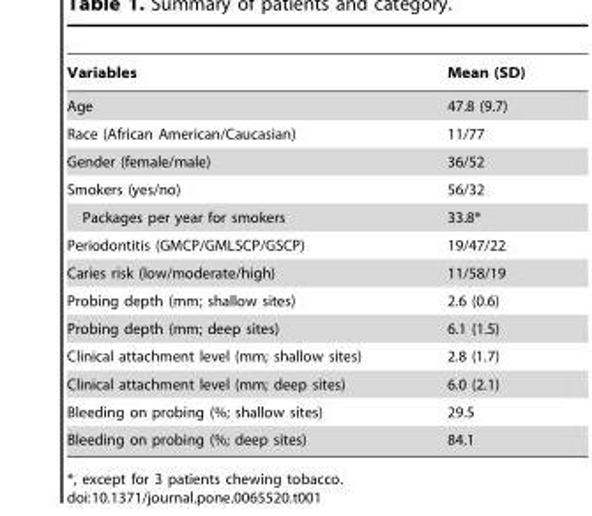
<table><thead><tr><td>Variables</td><td>Mean (SD)</td></tr></thead><tbody><tr><td>Age</td><td>47.8 (9.7)</td></tr><tr><td>Race (African American/Caucasian)</td><td>11/77</td></tr><tr><td>Gender (female/male)</td><td>36/52</td></tr><tr><td>Smokers (yes/no)</td><td>56/32</td></tr><tr><td>Packages per year for smokers</td><td>33.8*</td></tr><tr><td>Periodontitis (GMCP/GMLSCP/GSCP)</td><td>19/47/22</td></tr><tr><td>Caries risk (low/moderate/high)</td><td>11/58/19</td></tr><tr><td>Probing depth (mm; shallow sites)</td><td>2.6 (0.6)</td></tr><tr><td>Probing depth (mm; deep sites)</td><td>6.1 (1.5)</td></tr><tr><td>Clinical attachment level (mm; shallow sites)</td><td>2.8 (1.7)</td></tr><tr><td>Clinical attachment level (mm; deep sites)</td><td>6.0 (2.1)</td></tr><tr><td>Bleeding on probing (%; shallow sites)</td><td>29.5</td></tr><tr><td>Bleeding on probing (%; deep sites)</td><td>84.1</td></tr></tbody></table>